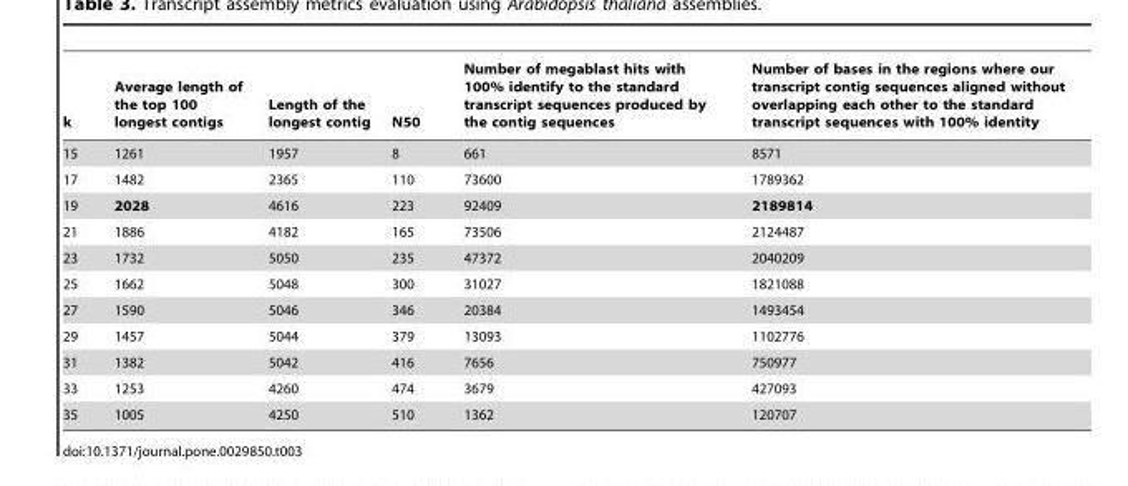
<table><thead><tr><td>k</td><td>Average length of the top 100 longest contigs</td><td>Length of the longest contig</td><td>N50</td><td>Number of megablast hits with 100% identify to the standard transcript sequences produced by the contig sequences</td><td>Number of bases in the regions where our transcript contig sequences aligned without overlapping each other to the standard transcript sequences with 100% identity</td></tr></thead><tbody><tr><td>15</td><td>1261</td><td>1957</td><td>8</td><td>661</td><td>8571</td></tr><tr><td>17</td><td>1482</td><td>2365</td><td>110</td><td>73600</td><td>1789362</td></tr><tr><td>19</td><td>2028</td><td>4616</td><td>223</td><td>92409</td><td>2189814</td></tr><tr><td>21</td><td>1886</td><td>4182</td><td>165</td><td>73506</td><td>2124487</td></tr><tr><td>23</td><td>1732</td><td>5050</td><td>235</td><td>47372</td><td>2040209</td></tr><tr><td>25</td><td>1662</td><td>5048</td><td>300</td><td>31027</td><td>1821088</td></tr><tr><td>27</td><td>1590</td><td>5046</td><td>346</td><td>20384</td><td>1493454</td></tr><tr><td>29</td><td>1457</td><td>5044</td><td>379</td><td>13093</td><td>1102776</td></tr><tr><td>31</td><td>1382</td><td>5042</td><td>416</td><td>7656</td><td>750977</td></tr><tr><td>33</td><td>1253</td><td>4260</td><td>474</td><td>3679</td><td>427093</td></tr><tr><td>35</td><td>1005</td><td>4250</td><td>510</td><td>1362</td><td>120707</td></tr></tbody></table>